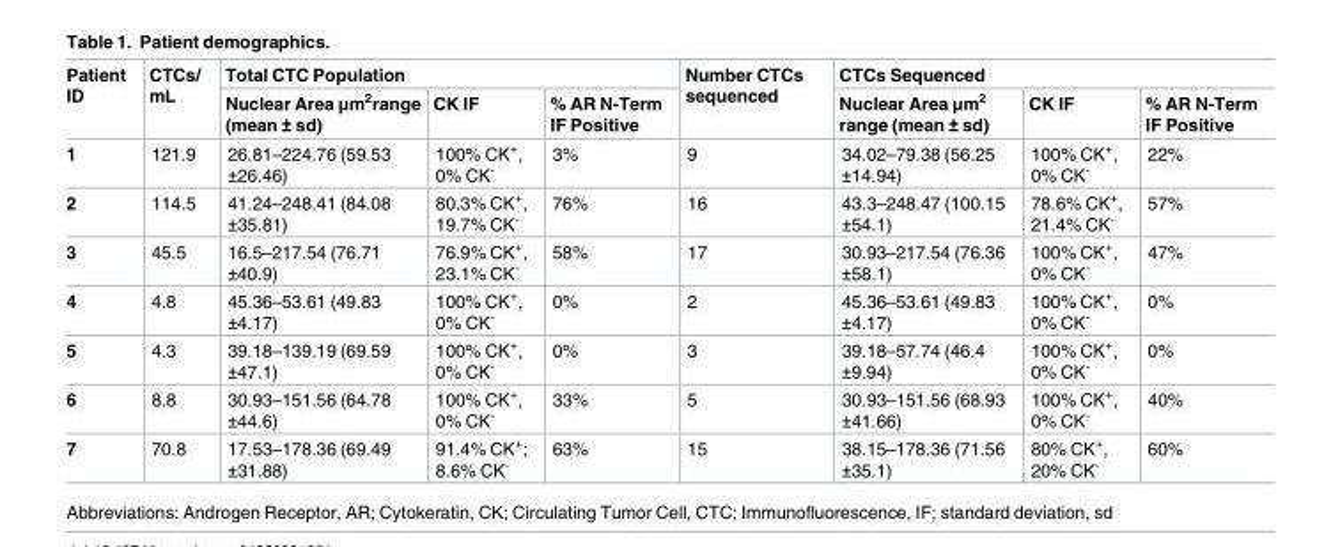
<table><thead><tr><td rowspan="2">Patient ID</td><td rowspan="2">CTCs/ mL</td><td colspan="3">Total CTC Population</td><td rowspan="2">Number CTCs sequenced</td><td colspan="3">CTCs Sequenced</td></tr><tr><td>Nuclear Area μm<sup>2</sup>range (mean ± sd)</td><td>CK IF</td><td>% AR N-Term IF Positive</td><td>Nuclear Area μm<sup>2</sup> range (mean ± sd)</td><td>CK IF</td><td>% AR N-Term IF Positive</td></tr></thead><tbody><tr><td>1</td><td>121.9</td><td>26.81–224.76 (59.53 ±26.46)</td><td>100% CK<sup>+</sup>, 0% CK<sup>-</sup></td><td>3%</td><td>9</td><td>34.02–79.38 (56.25 ±14.94)</td><td>100% CK<sup>+</sup>, 0% CK<sup>-</sup></td><td>22%</td></tr><tr><td>2</td><td>114.5</td><td>41.24–248.41 (84.08 ±35.81)</td><td>80.3% CK<sup>+</sup>, 19.7% CK<sup>-</sup></td><td>76%</td><td>16</td><td>43.3–248.47 (100.15 ±54.1)</td><td>78.6% CK<sup>+</sup>, 21.4% CK<sup>-</sup></td><td>57%</td></tr><tr><td>3</td><td>45.5</td><td>16.5–217.54 (76.71 ±40.9)</td><td>76.9% CK<sup>+</sup>, 23.1% CK<sup>-</sup></td><td>58%</td><td>17</td><td>30.93–217.54 (76.36 ±58.1)</td><td>100% CK<sup>+</sup>, 0% CK<sup>-</sup></td><td>47%</td></tr><tr><td>4</td><td>4.8</td><td>45.36–53.61 (49.83 ±4.17)</td><td>100% CK<sup>+</sup>, 0% CK<sup>-</sup></td><td>0%</td><td>2</td><td>45.36–53.61 (49.83 ±4.17)</td><td>100% CK<sup>+</sup>, 0% CK<sup>-</sup></td><td>0%</td></tr><tr><td>5</td><td>4.3</td><td>39.18–139.19 (69.59 ±47.1)</td><td>100% CK<sup>+</sup>, 0% CK<sup>-</sup></td><td>0%</td><td>3</td><td>39.18–57.74 (46.4 ±9.94)</td><td>100% CK<sup>+</sup>, 0% CK<sup>-</sup></td><td>0%</td></tr><tr><td>6</td><td>8.8</td><td>30.93–151.56 (64.78 ±44.6)</td><td>100% CK<sup>+</sup>, 0% CK<sup>-</sup></td><td>33%</td><td>5</td><td>30.93–151.56 (68.93 ±41.66)</td><td>100% CK<sup>+</sup>, 0% CK<sup>-</sup></td><td>40%</td></tr><tr><td>7</td><td>70.8</td><td>17.53–178.36 (69.49 ±31.88)</td><td>91.4% CK<sup>+</sup>; 8.6% CK<sup>-</sup></td><td>63%</td><td>15</td><td>38.15–178.36 (71.56 ±35.1)</td><td>80% CK<sup>+</sup>, 20% CK<sup>-</sup></td><td>60%</td></tr></tbody></table>